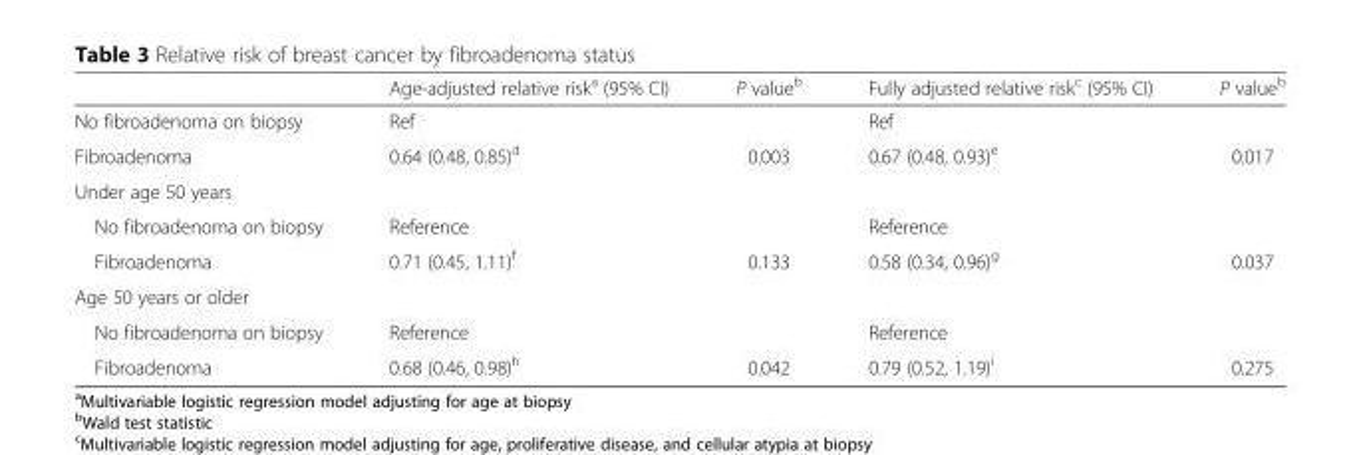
<table><thead><tr><td></td><td>Age-adjusted relative risk<sup>a</sup> (95% CI)</td><td>P value<sup>b</sup></td><td>Fully adjusted relative risk<sup>c</sup> (95% CI)</td><td>P value<sup>b</sup></td></tr></thead><tbody><tr><td>No fibroadenoma on biopsy</td><td>Ref</td><td></td><td>Ref</td><td></td></tr><tr><td>Fibroadenoma</td><td>0.64 (0.48, 0.85)<sup>d</sup></td><td>0.003</td><td>0.67 (0.48, 0.93)<sup>e</sup></td><td>0.017</td></tr><tr><td colspan="5">Under age 50 years</td></tr><tr><td>No fibroadenoma on biopsy</td><td>Reference</td><td></td><td>Reference</td><td></td></tr><tr><td>Fibroadenoma</td><td>0.71 (0.45, 1.11)<sup>f</sup></td><td>0.133</td><td>0.58 (0.34, 0.96)<sup>g</sup></td><td>0.037</td></tr><tr><td colspan="5">Age 50 years or older</td></tr><tr><td>No fibroadenoma on biopsy</td><td>Reference</td><td></td><td>Reference</td><td></td></tr><tr><td>Fibroadenoma</td><td>0.68 (0.46, 0.98)<sup>h</sup></td><td>0.042</td><td>0.79 (0.52, 1.19)<sup>i</sup></td><td>0.275</td></tr></tbody></table>